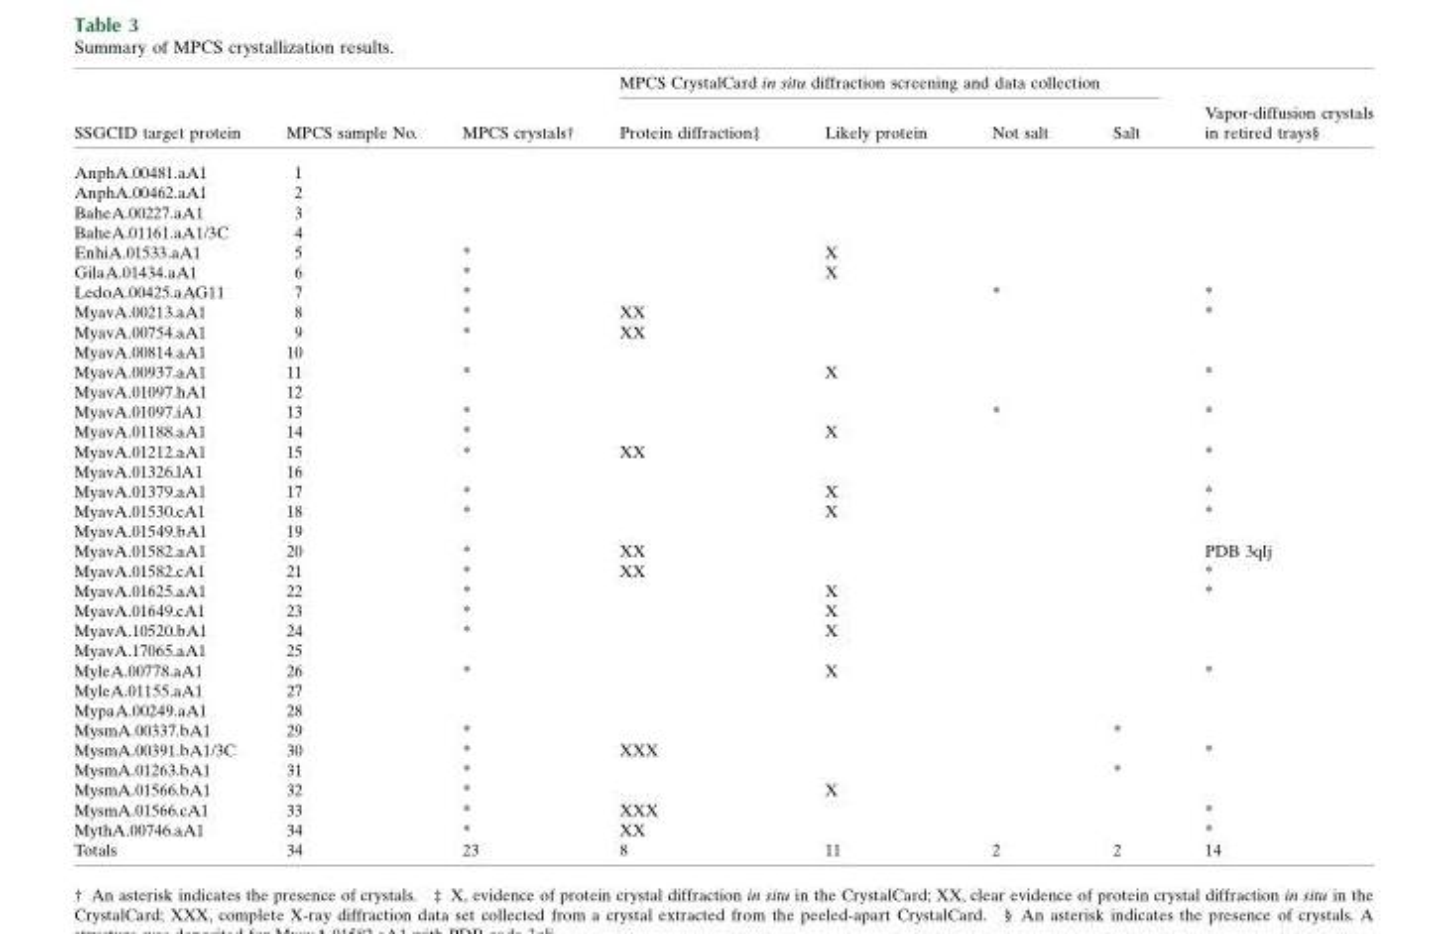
<table><thead><tr><td rowspan="2">SSGCID target protein</td><td rowspan="2">MPCS sample No.</td><td rowspan="2">MPCS crystals†</td><td colspan="4">MPCS CrystalCard in situ diffraction screening and data collection</td><td rowspan="2">Vapor-diffusion crystals in retired trays§</td></tr><tr><td>Protein diffraction‡</td><td>Likely protein</td><td>Not salt</td><td>Salt</td></tr></thead><tbody><tr><td>AnphA.00481.aA1</td><td>1</td><td></td><td></td><td></td><td></td><td></td><td></td></tr><tr><td>AnphA.00462.aA1</td><td>2</td><td></td><td></td><td></td><td></td><td></td><td></td></tr><tr><td>BaheA.00227.aA1</td><td>3</td><td></td><td></td><td></td><td></td><td></td><td></td></tr><tr><td>BaheA.01161.aA1/3C</td><td>4</td><td></td><td></td><td></td><td></td><td></td><td></td></tr><tr><td>EnhiA.01533.aA1</td><td>5</td><td>*</td><td></td><td>X</td><td></td><td></td><td></td></tr><tr><td>GilaA.01434.aA1</td><td>6</td><td>*</td><td></td><td>X</td><td></td><td></td><td></td></tr><tr><td>LedoA.00425.aAG11</td><td>7</td><td>*</td><td></td><td></td><td>*</td><td></td><td>*</td></tr><tr><td>MyavA.00213.aA1</td><td>8</td><td>*</td><td>XX</td><td></td><td></td><td></td><td>*</td></tr><tr><td>MyavA.00754.aA1</td><td>9</td><td>*</td><td>XX</td><td></td><td></td><td></td><td></td></tr><tr><td>MyavA.00814.aA1</td><td>10</td><td></td><td></td><td></td><td></td><td></td><td></td></tr><tr><td>MyavA.00937.aA1</td><td>11</td><td>*</td><td></td><td>X</td><td></td><td></td><td>*</td></tr><tr><td>MyavA.01097.hA1</td><td>12</td><td></td><td></td><td></td><td></td><td></td><td></td></tr><tr><td>MyavA.01097.iA1</td><td>13</td><td>*</td><td></td><td></td><td>*</td><td></td><td>*</td></tr><tr><td>MyavA.01188.aA1</td><td>14</td><td>*</td><td></td><td>X</td><td></td><td></td><td></td></tr><tr><td>MyavA.01212.aA1</td><td>15</td><td>*</td><td>XX</td><td></td><td></td><td></td><td>*</td></tr><tr><td>MyavA.01326.lA1</td><td>16</td><td></td><td></td><td></td><td></td><td></td><td></td></tr><tr><td>MyavA.01379.aA1</td><td>17</td><td>*</td><td></td><td>X</td><td></td><td></td><td>*</td></tr><tr><td>MyavA.01530.cA1</td><td>18</td><td>*</td><td></td><td>X</td><td></td><td></td><td>*</td></tr><tr><td>MyavA.01549.bA1</td><td>19</td><td></td><td></td><td></td><td></td><td></td><td></td></tr><tr><td>MyavA.01582.aA1</td><td>20</td><td>*</td><td>XX</td><td></td><td></td><td></td><td>PDB 3qlj</td></tr><tr><td>MyavA.01582.cA1</td><td>21</td><td>*</td><td>XX</td><td></td><td></td><td></td><td>*</td></tr><tr><td>MyavA.01625.aA1</td><td>22</td><td>*</td><td></td><td>X</td><td></td><td></td><td>*</td></tr><tr><td>MyavA.01649.cA1</td><td>23</td><td>*</td><td></td><td>X</td><td></td><td></td><td></td></tr><tr><td>MyavA.10520.bA1</td><td>24</td><td>*</td><td></td><td>X</td><td></td><td></td><td></td></tr><tr><td>MyavA.17065.aA1</td><td>25</td><td></td><td></td><td></td><td></td><td></td><td></td></tr><tr><td>MyleA.00778.aA1</td><td>26</td><td>*</td><td></td><td>X</td><td></td><td></td><td>*</td></tr><tr><td>MyleA.01155.aA1</td><td>27</td><td></td><td></td><td></td><td></td><td></td><td></td></tr><tr><td>MypaA.00249.aA1</td><td>28</td><td></td><td></td><td></td><td></td><td></td><td></td></tr><tr><td>MysmA.00337.bA1</td><td>29</td><td>*</td><td></td><td></td><td></td><td>*</td><td></td></tr><tr><td>MysmA.00391.bA1/3C</td><td>30</td><td>*</td><td>XXX</td><td></td><td></td><td></td><td>*</td></tr><tr><td>MysmA.01263.bA1</td><td>31</td><td>*</td><td></td><td></td><td></td><td>*</td><td></td></tr><tr><td>MysmA.01566.bA1</td><td>32</td><td>*</td><td></td><td>X</td><td></td><td></td><td></td></tr><tr><td>MysmA.01566.cA1</td><td>33</td><td>*</td><td>XXX</td><td></td><td></td><td></td><td>*</td></tr><tr><td>MythA.00746.aA1</td><td>34</td><td>*</td><td>XX</td><td></td><td></td><td></td><td>*</td></tr><tr><td>Totals</td><td>34</td><td>23</td><td>8</td><td>11</td><td>2</td><td>2</td><td>14</td></tr></tbody></table>